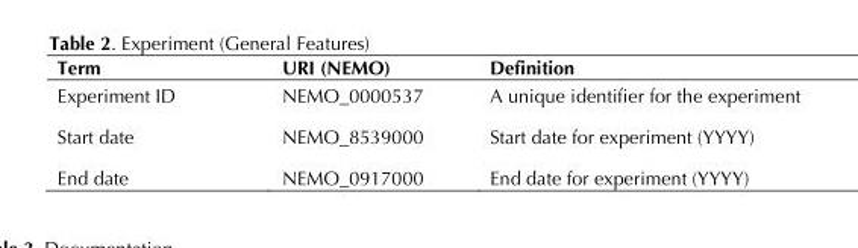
<table><thead><tr><td>Term</td><td>URI (NEMO)</td><td>Definition</td></tr></thead><tbody><tr><td>Experiment ID</td><td>NEMO_0000537</td><td>A unique identifier for the experiment</td></tr><tr><td>Start date</td><td>NEMO_8539000</td><td>Start date for experiment (YYYY)</td></tr><tr><td>End date</td><td>NEMO_0917000</td><td>End date for experiment (YYYY)</td></tr></tbody></table>